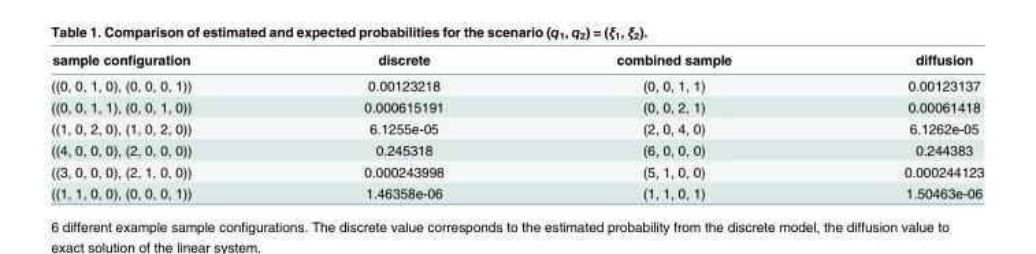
<table><thead><tr><td>sample configuration</td><td>discrete</td><td>combined sample</td><td>diffusion</td></tr></thead><tbody><tr><td>((0, 0, 1, 0), (0, 0, 0, 1))</td><td>0.00123218</td><td>(0, 0, 1, 1)</td><td>0.00123137</td></tr><tr><td>((0, 0, 1, 1), (0, 0, 1, 0))</td><td>0.000615191</td><td>(0, 0, 2, 1)</td><td>0.00061418</td></tr><tr><td>((1, 0, 2, 0), (1, 0, 2, 0))</td><td>6.1255e-05</td><td>(2, 0, 4, 0)</td><td>6.1262e-05</td></tr><tr><td>((4, 0, 0, 0), (2, 0, 0, 0))</td><td>0.245318</td><td>(6, 0, 0, 0)</td><td>0.244383</td></tr><tr><td>((3, 0, 0, 0), (2, 1, 0, 0))</td><td>0.000243998</td><td>(5, 1, 0, 0)</td><td>0.000244123</td></tr><tr><td>((1, 1, 0, 0), (0, 0, 0, 1))</td><td>1.46358e-06</td><td>(1, 1, 0, 1)</td><td>1.50463e-06</td></tr></tbody></table>